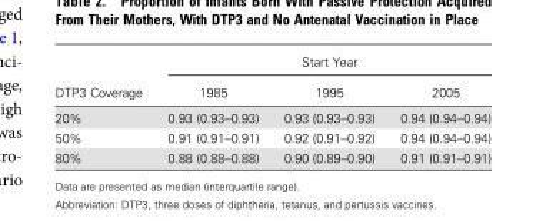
<table><thead><tr><td rowspan="2">DTP3 Coverage</td><td colspan="3">Start Year</td></tr><tr><td>1985</td><td>1995</td><td>2005</td></tr></thead><tbody><tr><td>20%</td><td>0.93 (0.93–0.93)</td><td>0.93 (0.93–0.93)</td><td>0.94 (0.94–0.94)</td></tr><tr><td>50%</td><td>0.91 (0.91–0.91)</td><td>0.92 (0.91–0.92)</td><td>0.94 (0.94–0.94)</td></tr><tr><td>80%</td><td>0.88 (0.88–0.88)</td><td>0.90 (0.89–0.90)</td><td>0.91 (0.91–0.91)</td></tr></tbody></table>